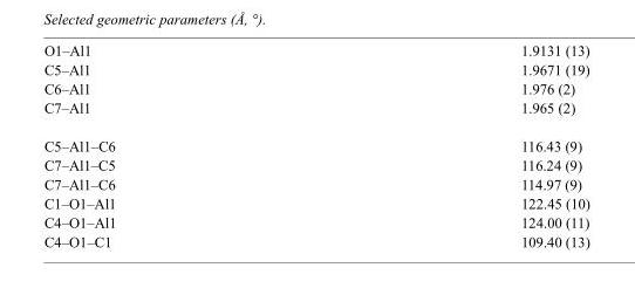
<table><tbody><tr><td>O1–Al1</td><td>1.9131 (13)</td></tr><tr><td>C5–Al1</td><td>1.9671 (19)</td></tr><tr><td>C6–Al1</td><td>1.976 (2)</td></tr><tr><td>C7–Al1</td><td>1.965 (2)</td></tr><tr><td>C5–Al1–C6</td><td>116.43 (9)</td></tr><tr><td>C7–Al1–C5</td><td>116.24 (9)</td></tr><tr><td>C7–Al1–C6</td><td>114.97 (9)</td></tr><tr><td>C1–O1–Al1</td><td>122.45 (10)</td></tr><tr><td>C4–O1–Al1</td><td>124.00 (11)</td></tr><tr><td>C4–O1–C1</td><td>109.40 (13)</td></tr></tbody></table>